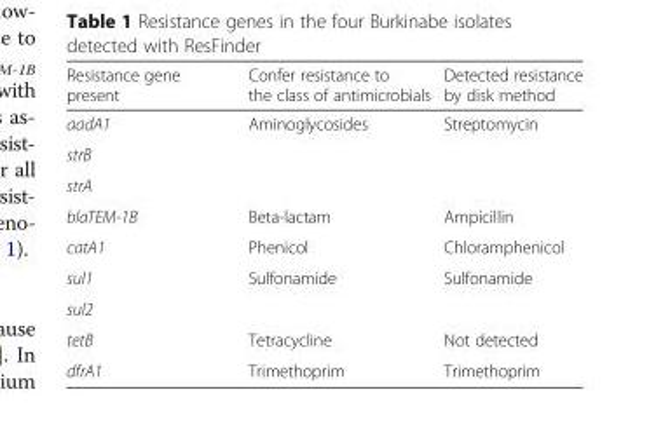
<table><thead><tr><td>Resistance gene present</td><td>Confer resistance to the class of antimicrobials</td><td>Detected resistance by disk method</td></tr></thead><tbody><tr><td>aadA1</td><td rowspan="3">Aminoglycosides</td><td rowspan="3">Streptomycin</td></tr><tr><td>strB</td></tr><tr><td>strA</td></tr><tr><td>blaTEM-1B</td><td>Beta-lactam</td><td>Ampicillin</td></tr><tr><td>catA1</td><td>Phenicol</td><td>Chloramphenicol</td></tr><tr><td>sul1</td><td rowspan="2">Sulfonamide</td><td rowspan="2">Sulfonamide</td></tr><tr><td>sul2</td></tr><tr><td>tetB</td><td>Tetracycline</td><td>Not detected</td></tr><tr><td>dfrA1</td><td>Trimethoprim</td><td>Trimethoprim</td></tr></tbody></table>